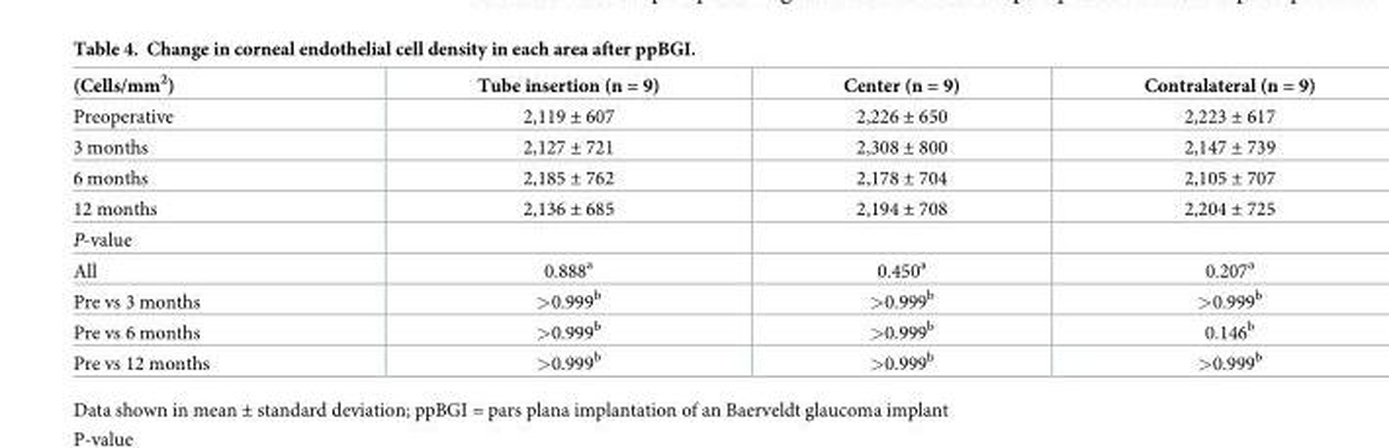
<table><thead><tr><td>(Cells/mm<sup>2</sup>)</td><td>Tube insertion (n = 9)</td><td>Center (n = 9)</td><td>Contralateral (n = 9)</td></tr></thead><tbody><tr><td>Preoperative</td><td>2,119 ± 607</td><td>2,226 ± 650</td><td>2,223 ± 617</td></tr><tr><td>3 months</td><td>2,127 ± 721</td><td>2,308 ± 800</td><td>2,147 ± 739</td></tr><tr><td>6 months</td><td>2,185 ± 762</td><td>2,178 ± 704</td><td>2,105 ± 707</td></tr><tr><td>12 months</td><td>2,136 ± 685</td><td>2,194 ± 708</td><td>2,204 ± 725</td></tr><tr><td colspan="4">P-value</td></tr><tr><td>All</td><td>0.888<sup>a</sup></td><td>0.450<sup>a</sup></td><td>0.207<sup>a</sup></td></tr><tr><td>Pre vs 3 months</td><td>&gt;0.999<sup>b</sup></td><td>&gt;0.999<sup>b</sup></td><td>&gt;0.999<sup>b</sup></td></tr><tr><td>Pre vs 6 months</td><td>&gt;0.999<sup>b</sup></td><td>&gt;0.999<sup>b</sup></td><td>0.146<sup>b</sup></td></tr><tr><td>Pre vs 12 months</td><td>&gt;0.999<sup>b</sup></td><td>&gt;0.999<sup>b</sup></td><td>&gt;0.999<sup>b</sup></td></tr></tbody></table>